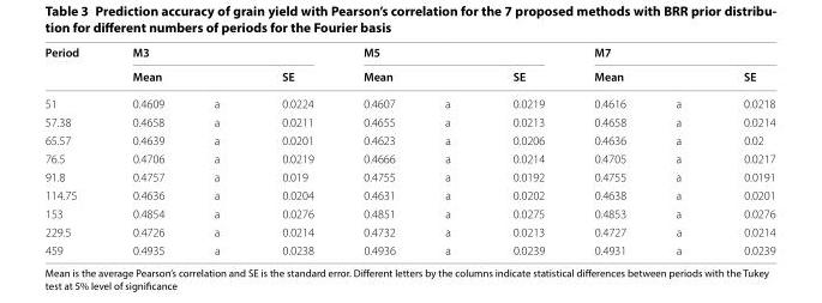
<table><thead><tr><td rowspan="2">Period</td><td colspan="3">M3</td><td colspan="3">M5</td><td colspan="3">M7</td></tr><tr><td>Mean</td><td></td><td>SE</td><td>Mean</td><td></td><td>SE</td><td>Mean</td><td></td><td>SE</td></tr></thead><tbody><tr><td>51</td><td>0.4609</td><td>a</td><td>0.0224</td><td>0.4607</td><td>a</td><td>0.0219</td><td>0.4616</td><td>a</td><td>0.0218</td></tr><tr><td>57.38</td><td>0.4658</td><td>a</td><td>0.0211</td><td>0.4655</td><td>a</td><td>0.0213</td><td>0.4658</td><td>a</td><td>0.0214</td></tr><tr><td>65.57</td><td>0.4639</td><td>a</td><td>0.0201</td><td>0.4623</td><td>a</td><td>0.0206</td><td>0.4636</td><td>a</td><td>0.02</td></tr><tr><td>76.5</td><td>0.4706</td><td>a</td><td>0.0219</td><td>0.4666</td><td>a</td><td>0.0214</td><td>0.4705</td><td>a</td><td>0.0217</td></tr><tr><td>91.8</td><td>0.4757</td><td>a</td><td>0.019</td><td>0.4755</td><td>a</td><td>0.0192</td><td>0.4755</td><td>a</td><td>0.0191</td></tr><tr><td>114.75</td><td>0.4636</td><td>a</td><td>0.0204</td><td>0.4631</td><td>a</td><td>0.0202</td><td>0.4638</td><td>a</td><td>0.0201</td></tr><tr><td>153</td><td>0.4854</td><td>a</td><td>0.0276</td><td>0.4851</td><td>a</td><td>0.0275</td><td>0.4853</td><td>a</td><td>0.0276</td></tr><tr><td>229.5</td><td>0.4726</td><td>a</td><td>0.0214</td><td>0.4732</td><td>a</td><td>0.0213</td><td>0.4727</td><td>a</td><td>0.0214</td></tr><tr><td>459</td><td>0.4935</td><td>a</td><td>0.0238</td><td>0.4936</td><td>a</td><td>0.0239</td><td>0.4931</td><td>a</td><td>0.0239</td></tr></tbody></table>